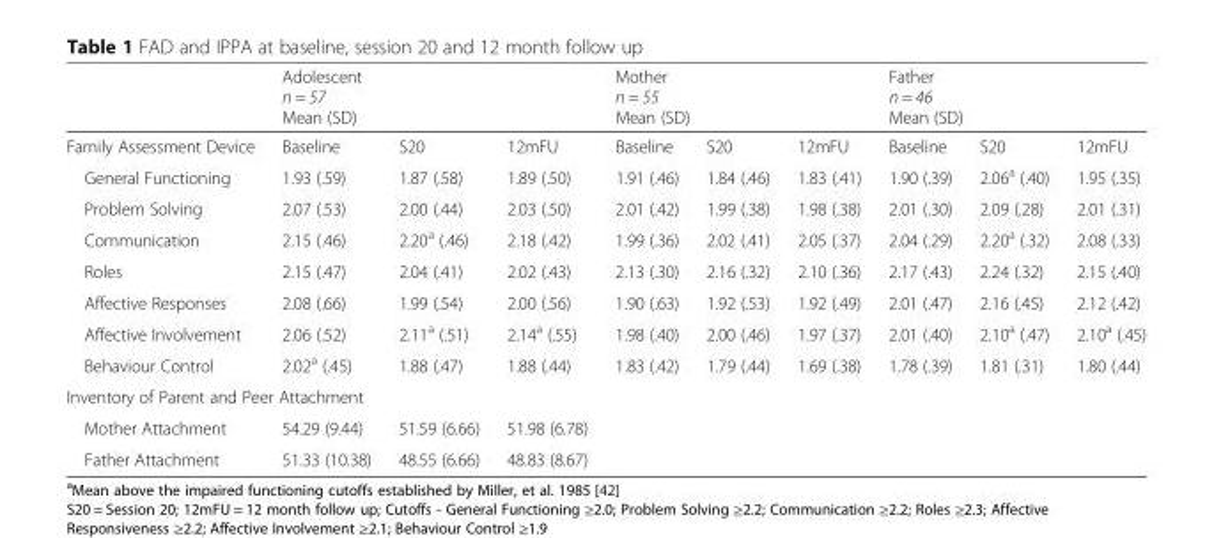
<table><thead><tr><td rowspan="2">Family Assessment Device</td><td colspan="3">Adolescent n = 57 Mean (SD)</td><td colspan="3">Mother n = 55 Mean (SD)</td><td colspan="3">Father n = 46 Mean (SD)</td></tr><tr><td>Baseline</td><td>S20</td><td>12mFU</td><td>Baseline</td><td>S20</td><td>12mFU</td><td>Baseline</td><td>S20</td><td>12mFU</td></tr></thead><tbody><tr><td>General Functioning</td><td>1.93 (.59)</td><td>1.87 (.58)</td><td>1.89 (.50)</td><td>1.91 (.46)</td><td>1.84 (.46)</td><td>1.83 (.41)</td><td>1.90 (.39)</td><td>2.06<sup>a</sup> (.40)</td><td>1.95 (.35)</td></tr><tr><td>Problem Solving</td><td>2.07 (.53)</td><td>2.00 (.44)</td><td>2.03 (.50)</td><td>2.01 (.42)</td><td>1.99 (.38)</td><td>1.98 (.38)</td><td>2.01 (.30)</td><td>2.09 (.28)</td><td>2.01 (.31)</td></tr><tr><td>Communication</td><td>2.15 (.46)</td><td>2.20<sup>a</sup> (.46)</td><td>2.18 (.42)</td><td>1.99 (.36)</td><td>2.02 (.41)</td><td>2.05 (.37)</td><td>2.04 (.29)</td><td>2.20<sup>a</sup> (.32)</td><td>2.08 (.33)</td></tr><tr><td>Roles</td><td>2.15 (.47)</td><td>2.04 (.41)</td><td>2.02 (.43)</td><td>2.13 (.30)</td><td>2.16 (.32)</td><td>2.10 (.36)</td><td>2.17 (.43)</td><td>2.24 (.32)</td><td>2.15 (.40)</td></tr><tr><td>Affective Responses</td><td>2.08 (.66)</td><td>1.99 (.54)</td><td>2.00 (.56)</td><td>1.90 (.63)</td><td>1.92 (.53)</td><td>1.92 (.49)</td><td>2.01 (.47)</td><td>2.16 (.45)</td><td>2.12 (.42)</td></tr><tr><td>Affective Involvement</td><td>2.06 (.52)</td><td>2.11<sup>a</sup> (.51)</td><td>2.14<sup>a</sup> (.55)</td><td>1.98 (.40)</td><td>2.00 (.46)</td><td>1.97 (.37)</td><td>2.01 (.40)</td><td>2.10<sup>a</sup> (.47)</td><td>2.10<sup>a</sup> (.45)</td></tr><tr><td>Behaviour Control</td><td>2.02<sup>a</sup> (.45)</td><td>1.88 (.47)</td><td>1.88 (.44)</td><td>1.83 (.42)</td><td>1.79 (.44)</td><td>1.69 (.38)</td><td>1.78 (.39)</td><td>1.81 (.31)</td><td>1.80 (.44)</td></tr><tr><td colspan="10">Inventory of Parent and Peer Attachment</td></tr><tr><td>Mother Attachment</td><td>54.29 (9.44)</td><td>51.59 (6.66)</td><td>51.98 (6.78)</td><td></td><td></td><td></td><td></td><td></td><td></td></tr><tr><td>Father Attachment</td><td>51.33 (10.38)</td><td>48.55 (6.66)</td><td>48.83 (8.67)</td><td></td><td></td><td></td><td></td><td></td><td></td></tr></tbody></table>